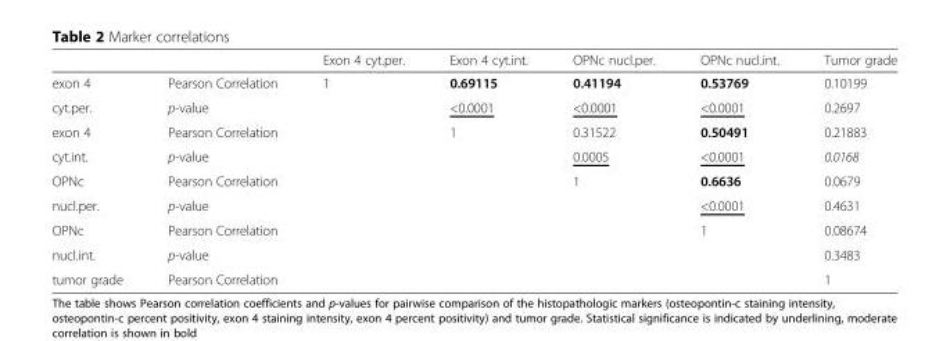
<table><thead><tr><td></td><td></td><td>Exon 4 cyt.per.</td><td>Exon 4 cyt.int.</td><td>OPNc nucl.per.</td><td>OPNc nucl.int.</td><td>Tumor grade</td></tr></thead><tbody><tr><td>exon 4</td><td>Pearson Correlation</td><td>1</td><td>0.69115</td><td>0.41194</td><td>0.53769</td><td>0.10199</td></tr><tr><td>cyt.per.</td><td>p-value</td><td></td><td>&lt;0.0001</td><td>&lt;0.0001</td><td>&lt;0.0001</td><td>0.2697</td></tr><tr><td>exon 4</td><td>Pearson Correlation</td><td></td><td>1</td><td>0.31522</td><td>0.50491</td><td>0.21883</td></tr><tr><td>cyt.int.</td><td>p-value</td><td></td><td></td><td>0.0005</td><td>&lt;0.0001</td><td>0.0168</td></tr><tr><td>OPNc</td><td>Pearson Correlation</td><td></td><td></td><td>1</td><td>0.6636</td><td>0.0679</td></tr><tr><td>nucl.per.</td><td>p-value</td><td></td><td></td><td></td><td>&lt;0.0001</td><td>0.4631</td></tr><tr><td>OPNc</td><td>Pearson Correlation</td><td></td><td></td><td></td><td>1</td><td>0.08674</td></tr><tr><td>nucl.int.</td><td>p-value</td><td></td><td></td><td></td><td></td><td>0.3483</td></tr><tr><td>tumor grade</td><td>Pearson Correlation</td><td></td><td></td><td></td><td></td><td>1</td></tr></tbody></table>